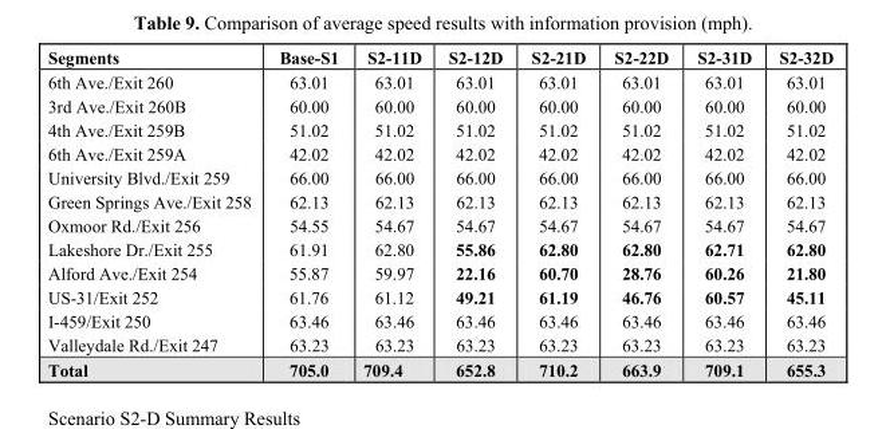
<table><thead><tr><td>Segments</td><td>Base-S1</td><td>S2-11D</td><td>S2-12D</td><td>S2-21D</td><td>S2-22D</td><td>S2-31D</td><td>S2-32D</td></tr></thead><tbody><tr><td>6th Ave./Exit 260</td><td>63.01</td><td>63.01</td><td>63.01</td><td>63.01</td><td>63.01</td><td>63.01</td><td>63.01</td></tr><tr><td>3rd Ave./Exit 260B</td><td>60.00</td><td>60.00</td><td>60.00</td><td>60.00</td><td>60.00</td><td>60.00</td><td>60.00</td></tr><tr><td>4th Ave./Exit 259B</td><td>51.02</td><td>51.02</td><td>51.02</td><td>51.02</td><td>51.02</td><td>51.02</td><td>51.02</td></tr><tr><td>6th Ave./Exit 259A</td><td>42.02</td><td>42.02</td><td>42.02</td><td>42.02</td><td>42.02</td><td>42.02</td><td>42.02</td></tr><tr><td>University Blvd./Exit 259</td><td>66.00</td><td>66.00</td><td>66.00</td><td>66.00</td><td>66.00</td><td>66.00</td><td>66.00</td></tr><tr><td>Green Springs Ave./Exit 258</td><td>62.13</td><td>62.13</td><td>62.13</td><td>62.13</td><td>62.13</td><td>62.13</td><td>62.13</td></tr><tr><td>Oxmoor Rd./Exit 256</td><td>54.55</td><td>54.67</td><td>54.67</td><td>54.67</td><td>54.67</td><td>54.67</td><td>54.67</td></tr><tr><td>Lakeshore Dr./Exit 255</td><td>61.91</td><td>62.80</td><td>55.86</td><td>62.80</td><td>62.80</td><td>62.71</td><td>62.80</td></tr><tr><td>Alford Ave./Exit 254</td><td>55.87</td><td>59.97</td><td>22.16</td><td>60.70</td><td>28.76</td><td>60.26</td><td>21.80</td></tr><tr><td>US-31/Exit 252</td><td>61.76</td><td>61.12</td><td>49.21</td><td>61.19</td><td>46.76</td><td>60.57</td><td>45.11</td></tr><tr><td>I-459/Exit 250</td><td>63.46</td><td>63.46</td><td>63.46</td><td>63.46</td><td>63.46</td><td>63.46</td><td>63.46</td></tr><tr><td>Valleydale Rd./Exit 247</td><td>63.23</td><td>63.23</td><td>63.23</td><td>63.23</td><td>63.23</td><td>63.23</td><td>63.23</td></tr><tr><td>Total</td><td>705.0</td><td>709.4</td><td>652.8</td><td>710.2</td><td>663.9</td><td>709.1</td><td>655.3</td></tr></tbody></table>